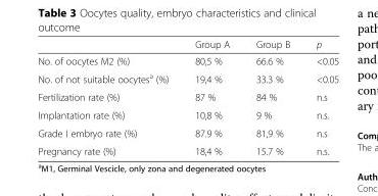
<table><thead><tr><td></td><td>Group A</td><td>Group B</td><td>p</td></tr></thead><tbody><tr><td>No. of oocytes M2 (%)</td><td>80,5 %</td><td>66.6 %</td><td>&lt;0.05</td></tr><tr><td>No. of not suitable oocytes<sup>a</sup> (%)</td><td>19,4 %</td><td>33.3 %</td><td>&lt;0.05</td></tr><tr><td>Fertilization rate (%)</td><td>87 %</td><td>84 %</td><td>n.s</td></tr><tr><td>Implantation rate (%)</td><td>10,8 %</td><td>9 %</td><td>n.s.</td></tr><tr><td>Grade I embryo rate (%)</td><td>87.9 %</td><td>81,9 %</td><td>n.s</td></tr><tr><td>Pregnancy rate (%)</td><td>18,4 %</td><td>15.7 %</td><td>n.s.</td></tr></tbody></table>